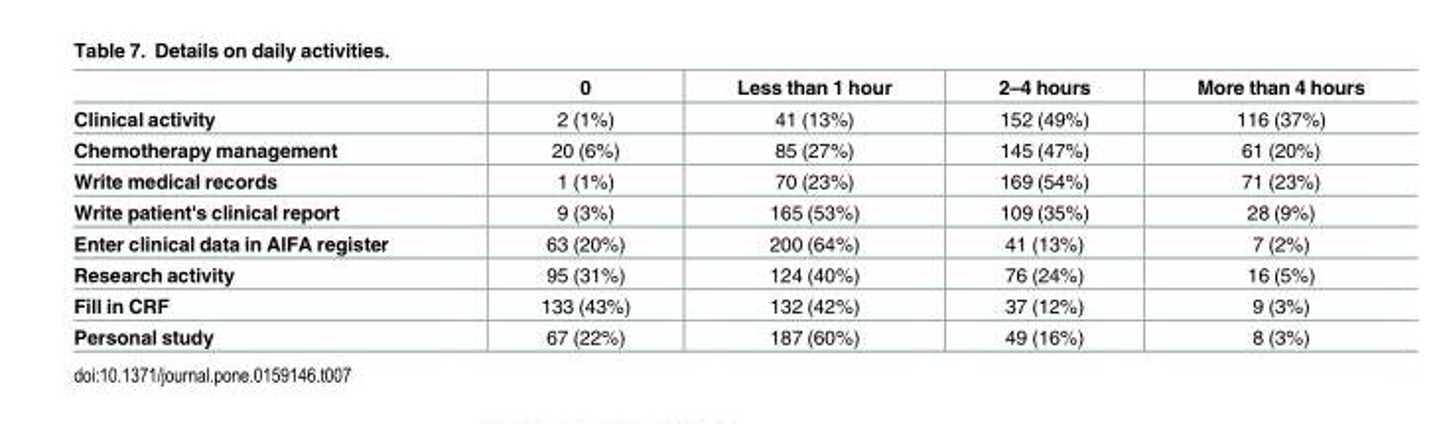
<table><thead><tr><td></td><td>0</td><td>Less than 1 hour</td><td>2–4 hours</td><td>More than 4 hours</td></tr></thead><tbody><tr><td>Clinical activity</td><td>2 (1%)</td><td>41 (13%)</td><td>152 (49%)</td><td>116 (37%)</td></tr><tr><td>Chemotherapy management</td><td>20 (6%)</td><td>85 (27%)</td><td>145 (47%)</td><td>61 (20%)</td></tr><tr><td>Write medical records</td><td>1 (1%)</td><td>70 (23%)</td><td>169 (54%)</td><td>71 (23%)</td></tr><tr><td>Write patient&#x27;s clinical report</td><td>9 (3%)</td><td>165 (53%)</td><td>109 (35%)</td><td>28 (9%)</td></tr><tr><td>Enter clinical data in AIFA register</td><td>63 (20%)</td><td>200 (64%)</td><td>41 (13%)</td><td>7 (2%)</td></tr><tr><td>Research activity</td><td>95 (31%)</td><td>124 (40%)</td><td>76 (24%)</td><td>16 (5%)</td></tr><tr><td>Fill in CRF</td><td>133 (43%)</td><td>132 (42%)</td><td>37 (12%)</td><td>9 (3%)</td></tr><tr><td>Personal study</td><td>67 (22%)</td><td>187 (60%)</td><td>49 (16%)</td><td>8 (3%)</td></tr></tbody></table>